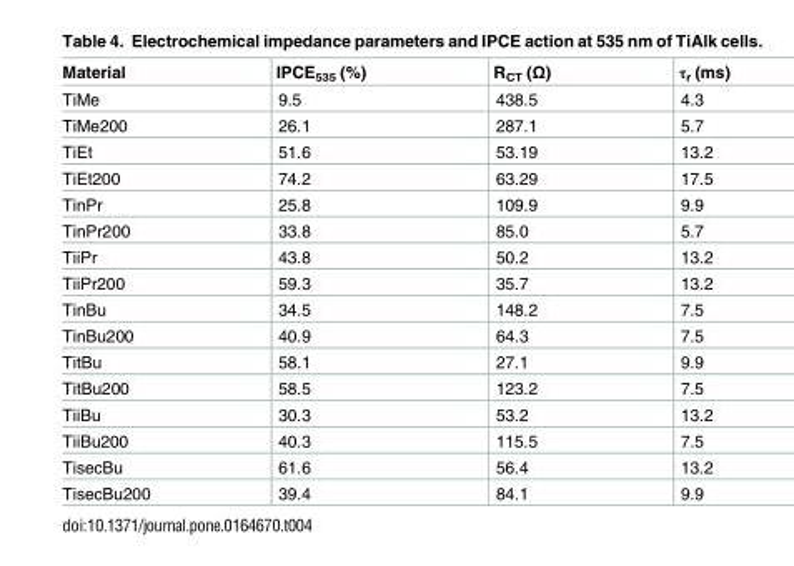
<table><thead><tr><td>Material</td><td>IPCE<sub>535</sub> (%)</td><td>R<sub>CT</sub> (Ω)</td><td>τ<sub>r</sub> (ms)</td></tr></thead><tbody><tr><td>TiMe</td><td>9.5</td><td>438.5</td><td>4.3</td></tr><tr><td>TiMe200</td><td>26.1</td><td>287.1</td><td>5.7</td></tr><tr><td>TiEt</td><td>51.6</td><td>53.19</td><td>13.2</td></tr><tr><td>TiEt200</td><td>74.2</td><td>63.29</td><td>17.5</td></tr><tr><td>TinPr</td><td>25.8</td><td>109.9</td><td>9.9</td></tr><tr><td>TinPr200</td><td>33.8</td><td>85.0</td><td>5.7</td></tr><tr><td>TiiPr</td><td>43.8</td><td>50.2</td><td>13.2</td></tr><tr><td>TiiPr200</td><td>59.3</td><td>35.7</td><td>13.2</td></tr><tr><td>TinBu</td><td>34.5</td><td>148.2</td><td>7.5</td></tr><tr><td>TinBu200</td><td>40.9</td><td>64.3</td><td>7.5</td></tr><tr><td>TitBu</td><td>58.1</td><td>27.1</td><td>9.9</td></tr><tr><td>TitBu200</td><td>58.5</td><td>123.2</td><td>7.5</td></tr><tr><td>TiiBu</td><td>30.3</td><td>53.2</td><td>13.2</td></tr><tr><td>TiiBu200</td><td>40.3</td><td>115.5</td><td>7.5</td></tr><tr><td>TisecBu</td><td>61.6</td><td>56.4</td><td>13.2</td></tr><tr><td>TisecBu200</td><td>39.4</td><td>84.1</td><td>9.9</td></tr></tbody></table>